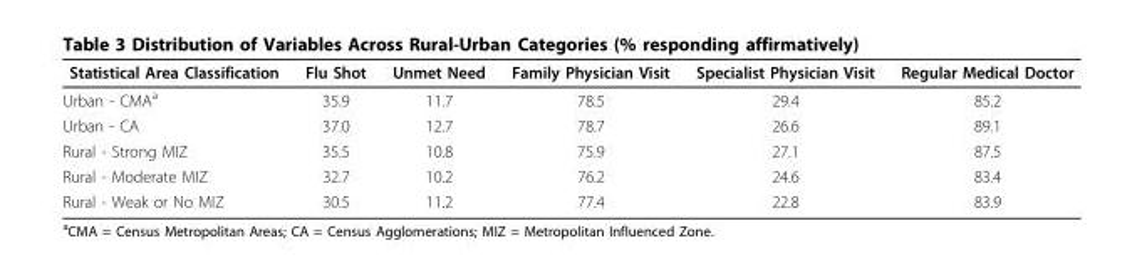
<table><thead><tr><td>Statistical Area Classification</td><td>Flu Shot</td><td>Unmet Need</td><td>Family Physician Visit</td><td>Specialist Physician Visit</td><td>Regular Medical Doctor</td></tr></thead><tbody><tr><td>Urban - CMA<sup>a</sup></td><td>35.9</td><td>11.7</td><td>78.5</td><td>29.4</td><td>85.2</td></tr><tr><td>Urban - CA</td><td>37.0</td><td>12.7</td><td>78.7</td><td>26.6</td><td>89.1</td></tr><tr><td>Rural - Strong MIZ</td><td>35.5</td><td>10.8</td><td>75.9</td><td>27.1</td><td>87.5</td></tr><tr><td>Rural - Moderate MIZ</td><td>32.7</td><td>10.2</td><td>76.2</td><td>24.6</td><td>83.4</td></tr><tr><td>Rural - Weak or No MIZ</td><td>30.5</td><td>11.2</td><td>77.4</td><td>22.8</td><td>83.9</td></tr></tbody></table>